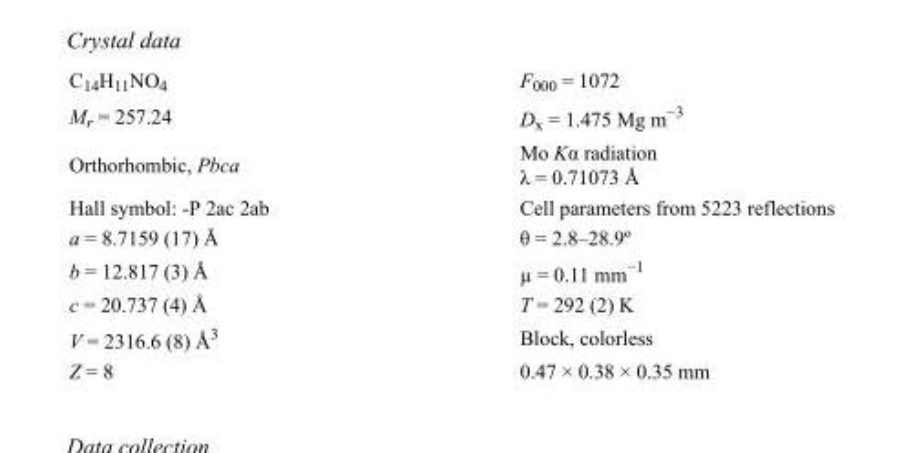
<table><tbody><tr><td>C<sub>14</sub>H<sub>11</sub>NO<sub>4</sub></td><td>F<sub>000</sub> = 1072</td></tr><tr><td>M<sub>r</sub> = 257.24</td><td>D<sub>x</sub> = 1.475 Mg m<sup>−3</sup></td></tr><tr><td>Orthorhombic, Pbca</td><td>Mo Kα radiation λ = 0.71073 Å</td></tr><tr><td>Hall symbol: -P 2ac 2ab</td><td>Cell parameters from 5223 reflections</td></tr><tr><td>a = 8.7159 (17) Å</td><td>θ = 2.8–28.9º</td></tr><tr><td>b = 12.817 (3) Å</td><td>µ = 0.11 mm<sup>−1</sup></td></tr><tr><td>c = 20.737 (4) Å</td><td>T = 292 (2) K</td></tr><tr><td>V = 2316.6 (8) Å<sup>3</sup></td><td>Block, colorless</td></tr><tr><td>Z = 8</td><td>0.47 × 0.38 × 0.35 mm</td></tr></tbody></table>